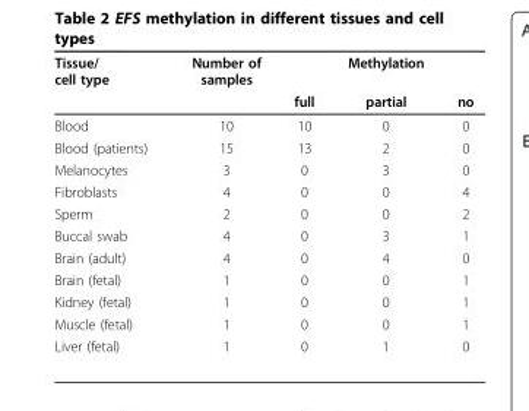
<table><thead><tr><td rowspan="2">Tissue/ cell type</td><td rowspan="2">Number of samples</td><td rowspan="2">full</td><td rowspan="2">Methylation partial</td><td rowspan="2">no</td></tr><tr></tr></thead><tbody><tr><td>Blood</td><td>10</td><td>10</td><td>0</td><td>0</td></tr><tr><td>Blood (patients)</td><td>15</td><td>13</td><td>2</td><td>0</td></tr><tr><td>Melanocytes</td><td>3</td><td>0</td><td>3</td><td>0</td></tr><tr><td>Fibroblasts</td><td>4</td><td>0</td><td>0</td><td>4</td></tr><tr><td>Sperm</td><td>2</td><td>0</td><td>0</td><td>2</td></tr><tr><td>Buccal swab</td><td>4</td><td>0</td><td>3</td><td>1</td></tr><tr><td>Brain (adult)</td><td>4</td><td>0</td><td>4</td><td>0</td></tr><tr><td>Brain (fetal)</td><td>1</td><td>0</td><td>0</td><td>1</td></tr><tr><td>Kidney (fetal)</td><td>1</td><td>0</td><td>0</td><td>1</td></tr><tr><td>Muscle (fetal)</td><td>1</td><td>0</td><td>0</td><td>1</td></tr><tr><td>Liver (fetal)</td><td>1</td><td>0</td><td>1</td><td>0</td></tr></tbody></table>